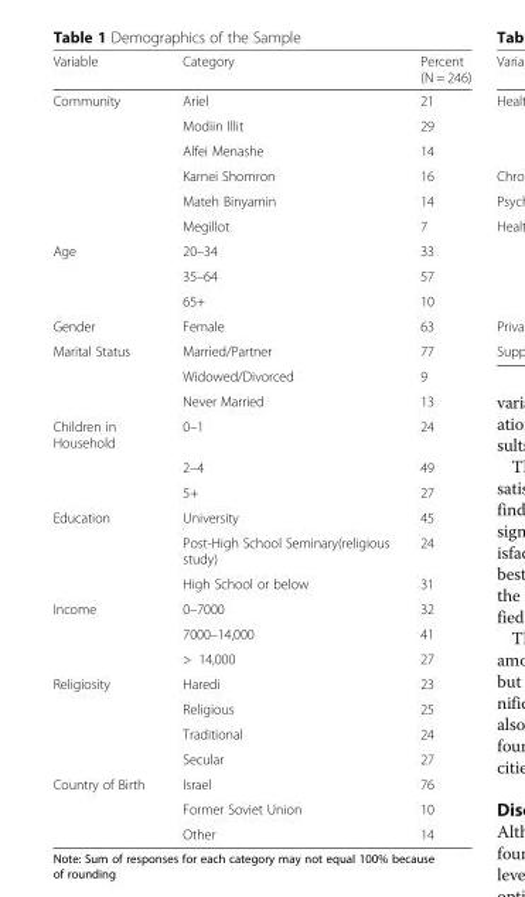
<table><thead><tr><td>Variable</td><td>Category</td><td>Percent (N = 246)</td></tr></thead><tbody><tr><td rowspan="6">Community</td><td>Ariel</td><td>21</td></tr><tr><td>Modiin Illit</td><td>29</td></tr><tr><td>Alfei Menashe</td><td>14</td></tr><tr><td>Karnei Shomron</td><td>16</td></tr><tr><td>Mateh Binyamin</td><td>14</td></tr><tr><td>Megillot</td><td>7</td></tr><tr><td rowspan="3">Age</td><td>20–34</td><td>33</td></tr><tr><td>35–64</td><td>57</td></tr><tr><td>65+</td><td>10</td></tr><tr><td>Gender</td><td>Female</td><td>63</td></tr><tr><td rowspan="3">Marital Status</td><td>Married/Partner</td><td>77</td></tr><tr><td>Widowed/Divorced</td><td>9</td></tr><tr><td>Never Married</td><td>13</td></tr><tr><td rowspan="3">Children in Household</td><td>0–1</td><td>24</td></tr><tr><td>2–4</td><td>49</td></tr><tr><td>5+</td><td>27</td></tr><tr><td rowspan="3">Education</td><td>University</td><td>45</td></tr><tr><td>Post-High School Seminary(religious study)</td><td>24</td></tr><tr><td>High School or below</td><td>31</td></tr><tr><td rowspan="3">Income</td><td>0–7000</td><td>32</td></tr><tr><td>7000–14,000</td><td>41</td></tr><tr><td>&gt; 14,000</td><td>27</td></tr><tr><td rowspan="4">Religiosity</td><td>Haredi</td><td>23</td></tr><tr><td>Religious</td><td>25</td></tr><tr><td>Traditional</td><td>24</td></tr><tr><td>Secular</td><td>27</td></tr><tr><td rowspan="3">Country of Birth</td><td>Israel</td><td>76</td></tr><tr><td>Former Soviet Union</td><td>10</td></tr><tr><td>Other</td><td>14</td></tr></tbody></table>